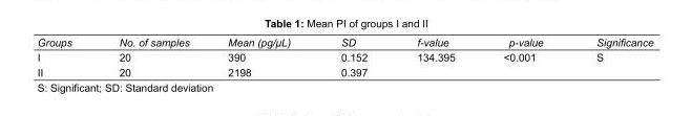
<table><tbody><tr><td>Groups</td><td>No. of samples</td><td>Mean (pg/μL)</td><td>SD</td><td>f-value</td><td>p-value</td><td>Significance</td></tr><tr><td>I</td><td>20</td><td>390</td><td>0.152</td><td>134.395</td><td>&lt;0.001</td><td>S</td></tr><tr><td>II</td><td>20</td><td>2198</td><td>0.397</td><td></td><td></td><td></td></tr></tbody></table>